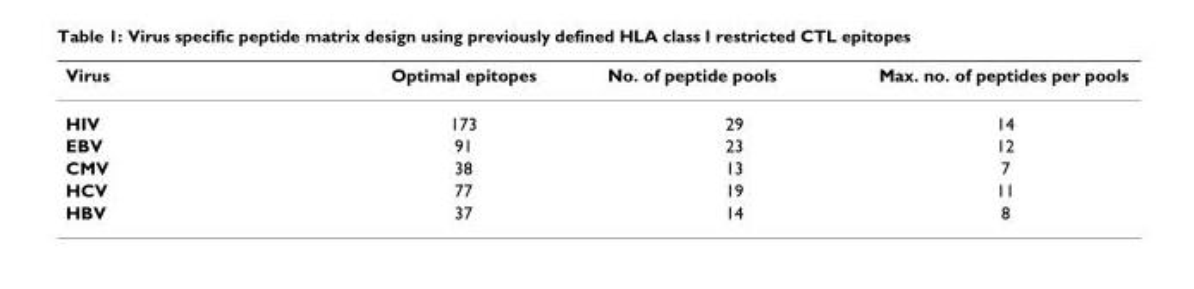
<table><thead><tr><td>Virus</td><td>Optimal epitopes</td><td>No. of peptide pools</td><td>Max. no. of peptides per pools</td></tr></thead><tbody><tr><td>HIV</td><td>173</td><td>29</td><td>14</td></tr><tr><td>EBV</td><td>91</td><td>23</td><td>12</td></tr><tr><td>CMV</td><td>38</td><td>13</td><td>7</td></tr><tr><td>HCV</td><td>77</td><td>19</td><td>11</td></tr><tr><td>HBV</td><td>37</td><td>14</td><td>8</td></tr></tbody></table>